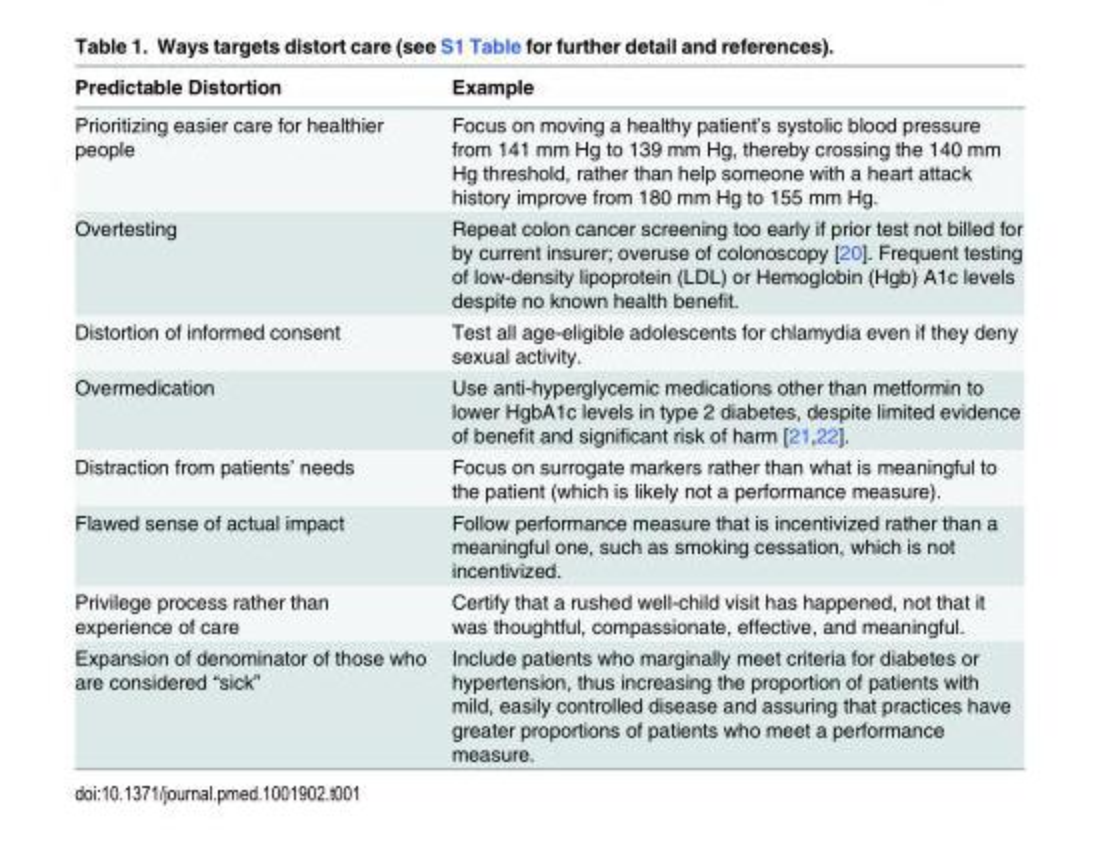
<table><thead><tr><td>Predictable Distortion</td><td>Example</td></tr></thead><tbody><tr><td>Prioritizing easier care for healthier people</td><td>Focus on moving a healthy patient’s systolic blood pressure from 141 mm Hg to 139 mm Hg, thereby crossing the 140 mm Hg threshold, rather than help someone with a heart attack history improve from 180 mm Hg to 155 mm Hg.</td></tr><tr><td>Overtesting</td><td>Repeat colon cancer screening too early if prior test not billed for by current insurer; overuse of colonoscopy [20]. Frequent testing of low-density lipoprotein (LDL) or Hemoglobin (Hgb) A1c levels despite no known health benefit.</td></tr><tr><td>Distortion of informed consent</td><td>Test all age-eligible adolescents for chlamydia even if they deny sexual activity.</td></tr><tr><td>Overmedication</td><td>Use anti-hyperglycemic medications other than metformin to lower HgbA1c levels in type 2 diabetes, despite limited evidence of benefit and significant risk of harm [21,22].</td></tr><tr><td>Distraction from patients’ needs</td><td>Focus on surrogate markers rather than what is meaningful to the patient (which is likely not a performance measure).</td></tr><tr><td>Flawed sense of actual impact</td><td>Follow performance measure that is incentivized rather than a meaningful one, such as smoking cessation, which is not incentivized.</td></tr><tr><td>Privilege process rather than experience of care</td><td>Certify that a rushed well-child visit has happened, not that it was thoughtful, compassionate, effective, and meaningful.</td></tr><tr><td>Expansion of denominator of those who are considered “sick”</td><td>Include patients who marginally meet criteria for diabetes or hypertension, thus increasing the proportion of patients with mild, easily controlled disease and assuring that practices have greater proportions of patients who meet a performance measure.</td></tr></tbody></table>